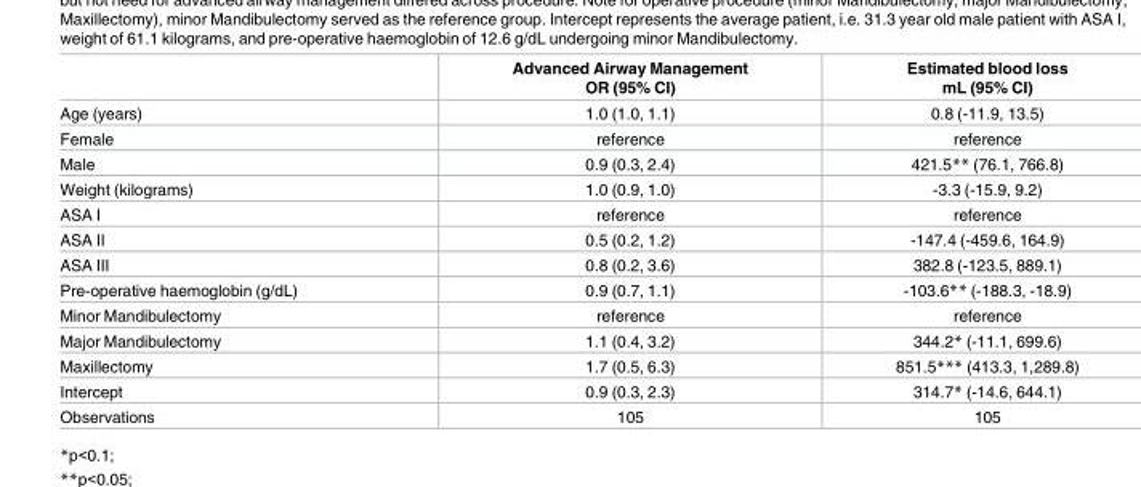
<table><thead><tr><td></td><td>Advanced Airway Management OR (95% CI)</td><td>Estimated blood loss mL (95% CI)</td></tr></thead><tbody><tr><td>Age (years)</td><td>1.0 (1.0, 1.1)</td><td>0.8 (-11.9, 13.5)</td></tr><tr><td>Female</td><td>reference</td><td>reference</td></tr><tr><td>Male</td><td>0.9 (0.3, 2.4)</td><td>421.5** (76.1, 766.8)</td></tr><tr><td>Weight (kilograms)</td><td>1.0 (0.9, 1.0)</td><td>-3.3 (-15.9, 9.2)</td></tr><tr><td>ASA I</td><td>reference</td><td>reference</td></tr><tr><td>ASA II</td><td>0.5 (0.2, 1.2)</td><td>-147.4 (-459.6, 164.9)</td></tr><tr><td>ASA III</td><td>0.8 (0.2, 3.6)</td><td>382.8 (-123.5, 889.1)</td></tr><tr><td>Pre-operative haemoglobin (g/dL)</td><td>0.9 (0.7, 1.1)</td><td>-103.6** (-188.3, -18.9)</td></tr><tr><td>Minor Mandibulectomy</td><td>reference</td><td>reference</td></tr><tr><td>Major Mandibulectomy</td><td>1.1 (0.4, 3.2)</td><td>344.2* (-11.1, 699.6)</td></tr><tr><td>Maxillectomy</td><td>1.7 (0.5, 6.3)</td><td>851.5*** (413.3, 1,289.8)</td></tr><tr><td>Intercept</td><td>0.9 (0.3, 2.3)</td><td>314.7* (-14.6, 644.1)</td></tr><tr><td>Observations</td><td>105</td><td>105</td></tr></tbody></table>